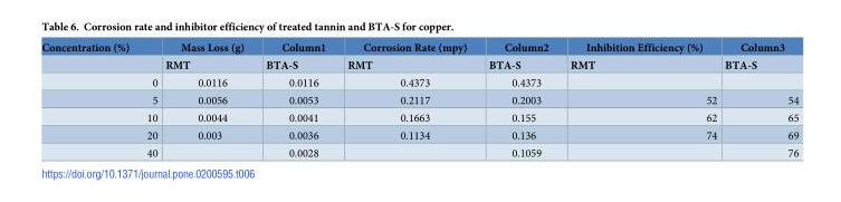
<table><thead><tr><td rowspan="2">Concentration (%)</td><td rowspan="2">Mass Loss (g) RMT</td><td rowspan="2">Column1 BTA-S</td><td rowspan="2">Corrosion Rate (mpy) RMT</td><td rowspan="2">Column2 BTA-S</td><td rowspan="2">Inhibition Efficiency (%) RMT</td><td rowspan="2">Column3 BTA-S</td></tr><tr></tr></thead><tbody><tr><td>0</td><td>0.0116</td><td>0.0116</td><td>0.4373</td><td>0.4373</td><td></td><td></td></tr><tr><td>5</td><td>0.0056</td><td>0.0053</td><td>0.2117</td><td>0.2003</td><td>52</td><td>54</td></tr><tr><td>10</td><td>0.0044</td><td>0.0041</td><td>0.1663</td><td>0.155</td><td>62</td><td>65</td></tr><tr><td>20</td><td>0.003</td><td>0.0036</td><td>0.1134</td><td>0.136</td><td>74</td><td>69</td></tr><tr><td>40</td><td></td><td>0.0028</td><td></td><td>0.1059</td><td></td><td>76</td></tr></tbody></table>